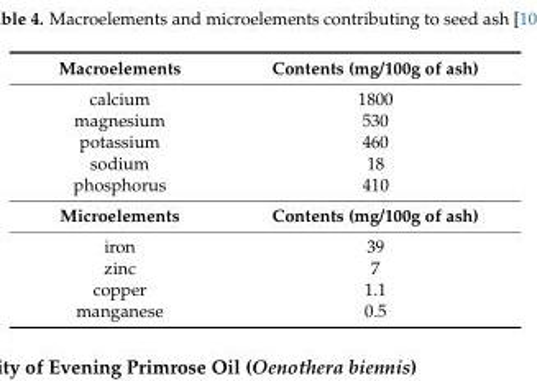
<table><tbody><tr><td>Macroelements</td><td>Contents (mg/100g of ash)</td></tr><tr><td>calcium</td><td>1800</td></tr><tr><td>magnesium</td><td>530</td></tr><tr><td>potassium</td><td>460</td></tr><tr><td>sodium</td><td>18</td></tr><tr><td>phosphorus</td><td>410</td></tr><tr><td>Microelements</td><td>Contents (mg/100g of ash)</td></tr><tr><td>iron</td><td>39</td></tr><tr><td>zinc</td><td>7</td></tr><tr><td>copper</td><td>1.1</td></tr><tr><td>manganese</td><td>0.5</td></tr></tbody></table>